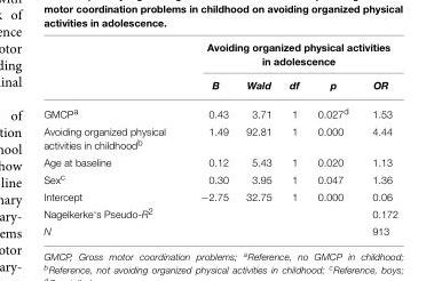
<table><thead><tr><td rowspan="2"></td><td colspan="5">Avoiding organized physical activities in adolescence</td></tr><tr><td>B</td><td>Wald</td><td>df</td><td>p</td><td>OR</td></tr></thead><tbody><tr><td>GMCP<sup>a</sup></td><td>0.43</td><td>3.71</td><td>1</td><td>0.027<sup>d</sup></td><td>1.53</td></tr><tr><td>Avoiding organized physical activities in childhood<sup>b</sup></td><td>1.49</td><td>92.81</td><td>1</td><td>0.000</td><td>4.44</td></tr><tr><td>Age at baseline</td><td>0.12</td><td>5.43</td><td>1</td><td>0.020</td><td>1.13</td></tr><tr><td>Sex<sup>c</sup></td><td>0.30</td><td>3.95</td><td>1</td><td>0.047</td><td>1.36</td></tr><tr><td>Intercept</td><td>−2.75</td><td>32.75</td><td>1</td><td>0.000</td><td>0.06</td></tr><tr><td>Nagelkerke‘s Pseudo-R<sup>2</sup></td><td></td><td></td><td></td><td></td><td>0.172</td></tr><tr><td>N</td><td></td><td></td><td></td><td></td><td>913</td></tr></tbody></table>